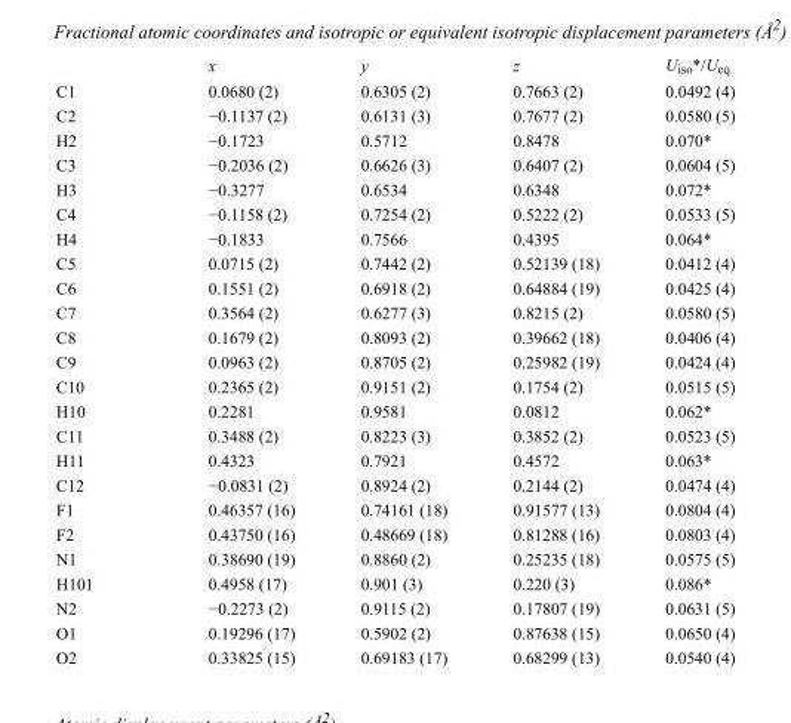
<table><thead><tr><td></td><td>x</td><td>y</td><td>z</td><td>U<sub>iso</sub>*/U<sub>eq</sub></td></tr></thead><tbody><tr><td>C1</td><td>0.0680 (2)</td><td>0.6305 (2)</td><td>0.7663 (2)</td><td>0.0492 (4)</td></tr><tr><td>C2</td><td>−0.1137 (2)</td><td>0.6131 (3)</td><td>0.7677 (2)</td><td>0.0580 (5)</td></tr><tr><td>H2</td><td>−0.1723</td><td>0.5712</td><td>0.8478</td><td>0.070*</td></tr><tr><td>C3</td><td>−0.2036 (2)</td><td>0.6626 (3)</td><td>0.6407 (2)</td><td>0.0604 (5)</td></tr><tr><td>H3</td><td>−0.3277</td><td>0.6534</td><td>0.6348</td><td>0.072*</td></tr><tr><td>C4</td><td>−0.1158 (2)</td><td>0.7254 (2)</td><td>0.5222 (2)</td><td>0.0533 (5)</td></tr><tr><td>H4</td><td>−0.1833</td><td>0.7566</td><td>0.4395</td><td>0.064*</td></tr><tr><td>C5</td><td>0.0715 (2)</td><td>0.7442 (2)</td><td>0.52139 (18)</td><td>0.0412 (4)</td></tr><tr><td>C6</td><td>0.1551 (2)</td><td>0.6918 (2)</td><td>0.64884 (19)</td><td>0.0425 (4)</td></tr><tr><td>C7</td><td>0.3564 (2)</td><td>0.6277 (3)</td><td>0.8215 (2)</td><td>0.0580 (5)</td></tr><tr><td>C8</td><td>0.1679 (2)</td><td>0.8093 (2)</td><td>0.39662 (18)</td><td>0.0406 (4)</td></tr><tr><td>C9</td><td>0.0963 (2)</td><td>0.8705 (2)</td><td>0.25982 (19)</td><td>0.0424 (4)</td></tr><tr><td>C10</td><td>0.2365 (2)</td><td>0.9151 (2)</td><td>0.1754 (2)</td><td>0.0515 (5)</td></tr><tr><td>H10</td><td>0.2281</td><td>0.9581</td><td>0.0812</td><td>0.062*</td></tr><tr><td>C11</td><td>0.3488 (2)</td><td>0.8223 (3)</td><td>0.3852 (2)</td><td>0.0523 (5)</td></tr><tr><td>H11</td><td>0.4323</td><td>0.7921</td><td>0.4572</td><td>0.063*</td></tr><tr><td>C12</td><td>−0.0831 (2)</td><td>0.8924 (2)</td><td>0.2144 (2)</td><td>0.0474 (4)</td></tr><tr><td>F1</td><td>0.46357 (16)</td><td>0.74161 (18)</td><td>0.91577 (13)</td><td>0.0804 (4)</td></tr><tr><td>F2</td><td>0.43750 (16)</td><td>0.48669 (18)</td><td>0.81288 (16)</td><td>0.0803 (4)</td></tr><tr><td>N1</td><td>0.38690 (19)</td><td>0.8860 (2)</td><td>0.25235 (18)</td><td>0.0575 (5)</td></tr><tr><td>H101</td><td>0.4958 (17)</td><td>0.901 (3)</td><td>0.220 (3)</td><td>0.086*</td></tr><tr><td>N2</td><td>−0.2273 (2)</td><td>0.9115 (2)</td><td>0.17807 (19)</td><td>0.0631 (5)</td></tr><tr><td>O1</td><td>0.19296 (17)</td><td>0.5902 (2)</td><td>0.87638 (15)</td><td>0.0650 (4)</td></tr><tr><td>O2</td><td>0.33825 (15)</td><td>0.69183 (17)</td><td>0.68299 (13)</td><td>0.0540 (4)</td></tr></tbody></table>